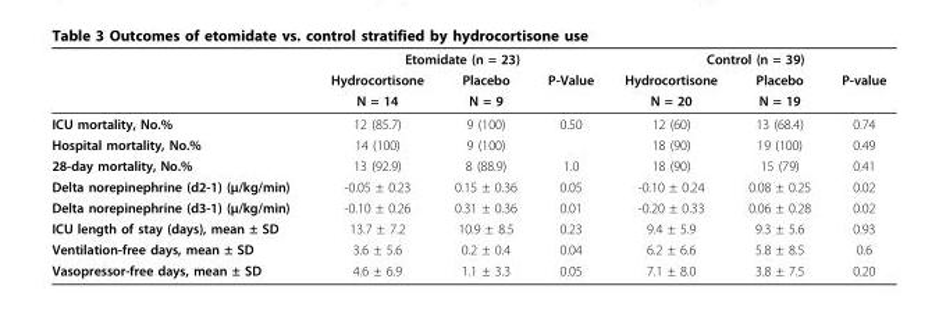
<table><thead><tr><td rowspan="3"></td><td colspan="3">Etomidate (n = 23)</td><td colspan="3">Control (n = 39)</td></tr><tr><td rowspan="2">Hydrocortisone N = 14</td><td rowspan="2">Placebo N = 9</td><td rowspan="2">P-Value</td><td rowspan="2">Hydrocortisone N = 20</td><td rowspan="2">Placebo N = 19</td><td rowspan="2">P-value</td></tr><tr></tr></thead><tbody><tr><td>ICU mortality, No.%</td><td>12 (85.7)</td><td>9 (100)</td><td>0.50</td><td>12 (60)</td><td>13 (68.4)</td><td>0.74</td></tr><tr><td>Hospital mortality, No.%</td><td>14 (100)</td><td>9 (100)</td><td></td><td>18 (90)</td><td>19 (100)</td><td>0.49</td></tr><tr><td>28-day mortality, No.%</td><td>13 (92.9)</td><td>8 (88.9)</td><td>1.0</td><td>18 (90)</td><td>15 (79)</td><td>0.41</td></tr><tr><td>Delta norepinephrine (d2-1) (μ/kg/min)</td><td>-0.05 ± 0.23</td><td>0.15 ± 0.36</td><td>0.05</td><td>-0.10 ± 0.24</td><td>0.08 ± 0.25</td><td>0.02</td></tr><tr><td>Delta norepinephrine (d3-1) (μ/kg/min)</td><td>-0.10 ± 0.26</td><td>0.31 ± 0.36</td><td>0.01</td><td>-0.20 ± 0.33</td><td>0.06 ± 0.28</td><td>0.02</td></tr><tr><td>ICU length of stay (days), mean ± SD</td><td>13.7 ± 7.2</td><td>10.9 ± 8.5</td><td>0.23</td><td>9.4 ± 5.9</td><td>9.3 ± 5.6</td><td>0.93</td></tr><tr><td>Ventilation-free days, mean ± SD</td><td>3.6 ± 5.6</td><td>0.2 ± 0.4</td><td>0.04</td><td>6.2 ± 6.6</td><td>5.8 ± 8.5</td><td>0.6</td></tr><tr><td>Vasopressor-free days, mean ± SD</td><td>4.6 ± 6.9</td><td>1.1 ± 3.3</td><td>0.05</td><td>7.1 ± 8.0</td><td>3.8 ± 7.5</td><td>0.20</td></tr></tbody></table>